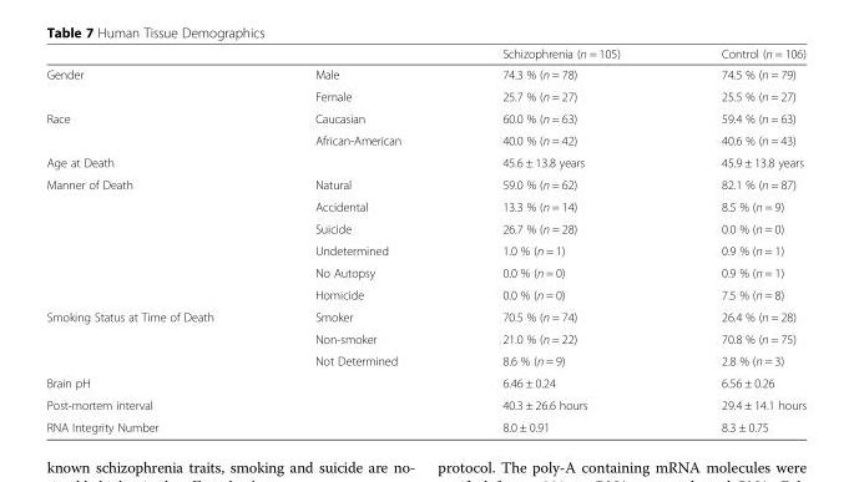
<table><thead><tr><td></td><td></td><td>Schizophrenia (n = 105)</td><td>Control (n = 106)</td></tr></thead><tbody><tr><td rowspan="2">Gender</td><td>Male</td><td>74.3 % (n = 78)</td><td>74.5 % (n = 79)</td></tr><tr><td>Female</td><td>25.7 % (n = 27)</td><td>25.5 % (n = 27)</td></tr><tr><td rowspan="2">Race</td><td>Caucasian</td><td>60.0 % (n = 63)</td><td>59.4 % (n = 63)</td></tr><tr><td>African-American</td><td>40.0 % (n = 42)</td><td>40.6 % (n = 43)</td></tr><tr><td>Age at Death</td><td></td><td>45.6 ± 13.8 years</td><td>45.9 ± 13.8 years</td></tr><tr><td rowspan="6">Manner of Death</td><td>Natural</td><td>59.0 % (n = 62)</td><td>82.1 % (n = 87)</td></tr><tr><td>Accidental</td><td>13.3 % (n = 14)</td><td>8.5 % (n = 9)</td></tr><tr><td>Suicide</td><td>26.7 % (n = 28)</td><td>0.0 % (n = 0)</td></tr><tr><td>Undetermined</td><td>1.0 % (n = 1)</td><td>0.9 % (n = 1)</td></tr><tr><td>No Autopsy</td><td>0.0 % (n = 0)</td><td>0.9 % (n = 1)</td></tr><tr><td>Homicide</td><td>0.0 % (n = 0)</td><td>7.5 % (n = 8)</td></tr><tr><td rowspan="3">Smoking Status at Time of Death</td><td>Smoker</td><td>70.5 % (n = 74)</td><td>26.4 % (n = 28)</td></tr><tr><td>Non-smoker</td><td>21.0 % (n = 22)</td><td>70.8 % (n = 75)</td></tr><tr><td>Not Determined</td><td>8.6 % (n = 9)</td><td>2.8 % (n = 3)</td></tr><tr><td>Brain pH</td><td></td><td>6.46 ± 0.24</td><td>6.56 ± 0.26</td></tr><tr><td>Post-mortem interval</td><td></td><td>40.3 ± 26.6 hours</td><td>29.4 ± 14.1 hours</td></tr><tr><td>RNA Integrity Number</td><td></td><td>8.0 ± 0.91</td><td>8.3 ± 0.75</td></tr></tbody></table>